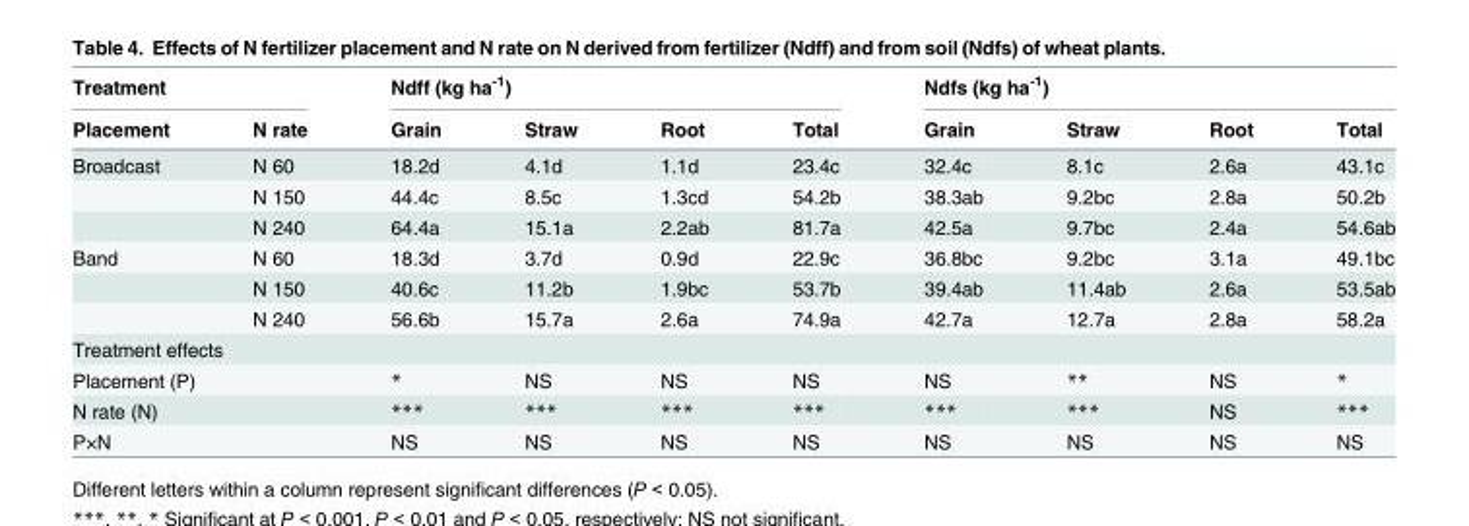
<table><thead><tr><td colspan="2">Treatment</td><td colspan="4">Ndff (kg ha<sup>-1</sup>)</td><td colspan="4">Ndfs (kg ha<sup>-1</sup>)</td></tr><tr><td>Placement</td><td>N rate</td><td>Grain</td><td>Straw</td><td>Root</td><td>Total</td><td>Grain</td><td>Straw</td><td>Root</td><td>Total</td></tr></thead><tbody><tr><td rowspan="3">Broadcast</td><td>N 60</td><td>18.2d</td><td>4.1d</td><td>1.1d</td><td>23.4c</td><td>32.4c</td><td>8.1c</td><td>2.6a</td><td>43.1c</td></tr><tr><td>N 150</td><td>44.4c</td><td>8.5c</td><td>1.3cd</td><td>54.2b</td><td>38.3ab</td><td>9.2bc</td><td>2.8a</td><td>50.2b</td></tr><tr><td>N 240</td><td>64.4a</td><td>15.1a</td><td>2.2ab</td><td>81.7a</td><td>42.5a</td><td>9.7bc</td><td>2.4a</td><td>54.6ab</td></tr><tr><td rowspan="3">Band</td><td>N 60</td><td>18.3d</td><td>3.7d</td><td>0.9d</td><td>22.9c</td><td>36.8bc</td><td>9.2bc</td><td>3.1a</td><td>49.1bc</td></tr><tr><td>N 150</td><td>40.6c</td><td>11.2b</td><td>1.9bc</td><td>53.7b</td><td>39.4ab</td><td>11.4ab</td><td>2.6a</td><td>53.5ab</td></tr><tr><td>N 240</td><td>56.6b</td><td>15.7a</td><td>2.6a</td><td>74.9a</td><td>42.7a</td><td>12.7a</td><td>2.8a</td><td>58.2a</td></tr><tr><td colspan="10">Treatment effects</td></tr><tr><td colspan="2">Placement (P)</td><td>*</td><td>NS</td><td>NS</td><td>NS</td><td>NS</td><td>**</td><td>NS</td><td>*</td></tr><tr><td colspan="2">N rate (N)</td><td>***</td><td>***</td><td>***</td><td>***</td><td>***</td><td>***</td><td>NS</td><td>***</td></tr><tr><td colspan="2">P×N</td><td>NS</td><td>NS</td><td>NS</td><td>NS</td><td>NS</td><td>NS</td><td>NS</td><td>NS</td></tr></tbody></table>